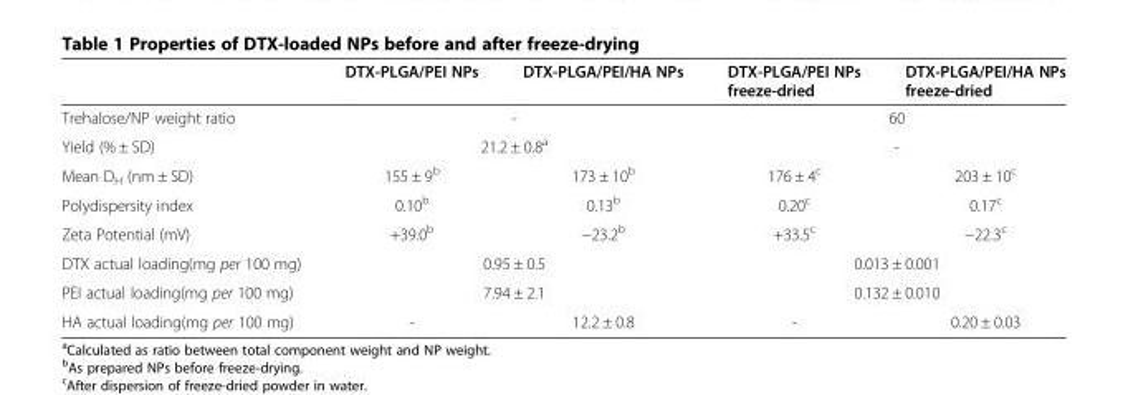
<table><thead><tr><td></td><td>DTX-PLGA/PEI NPs</td><td>DTX-PLGA/PEI/HA NPs</td><td>DTX-PLGA/PEI NPs freeze-dried</td><td>DTX-PLGA/PEI/HA NPs freeze-dried</td></tr></thead><tbody><tr><td>Trehalose/NP weight ratio</td><td colspan="2">-</td><td colspan="2">60</td></tr><tr><td>Yield (% ± SD)</td><td colspan="2">21.2 ± 0.8<sup>a</sup></td><td colspan="2">-</td></tr><tr><td>Mean D<sub>H</sub> (nm ± SD)</td><td>155 ± 9<sup>b</sup></td><td>173 ± 10<sup>b</sup></td><td>176 ± 4<sup>c</sup></td><td>203 ± 10<sup>c</sup></td></tr><tr><td>Polydispersity index</td><td>0.10<sup>b</sup></td><td>0.13<sup>b</sup></td><td>0.20<sup>c</sup></td><td>0.17<sup>c</sup></td></tr><tr><td>Zeta Potential (mV)</td><td>+39.0<sup>b</sup></td><td>−23.2<sup>b</sup></td><td>+33.5<sup>c</sup></td><td>−22.3<sup>c</sup></td></tr><tr><td>DTX actual loading(mg per 100 mg)</td><td colspan="2">0.95 ± 0.5</td><td colspan="2">0.013 ± 0.001</td></tr><tr><td>PEI actual loading(mg per 100 mg)</td><td colspan="2">7.94 ± 2.1</td><td colspan="2">0.132 ± 0.010</td></tr><tr><td>HA actual loading(mg per 100 mg)</td><td>-</td><td>12.2 ± 0.8</td><td>-</td><td>0.20 ± 0.03</td></tr></tbody></table>